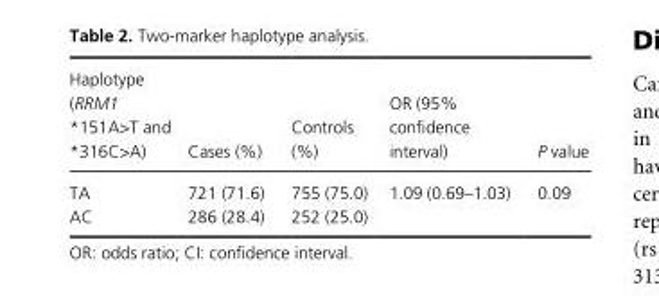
<table><thead><tr><td>Haplotype (RRM1 *151A&gt;T and *316C&gt;A)</td><td>Cases (%)</td><td>Controls (%)</td><td>OR (95% confidence interval)</td><td>P value</td></tr></thead><tbody><tr><td>TA</td><td>721 (71.6)</td><td>755 (75.0)</td><td rowspan="2">1.09 (0.69–1.03)</td><td rowspan="2">0.09</td></tr><tr><td>AC</td><td>286 (28.4)</td><td>252 (25.0)</td></tr></tbody></table>